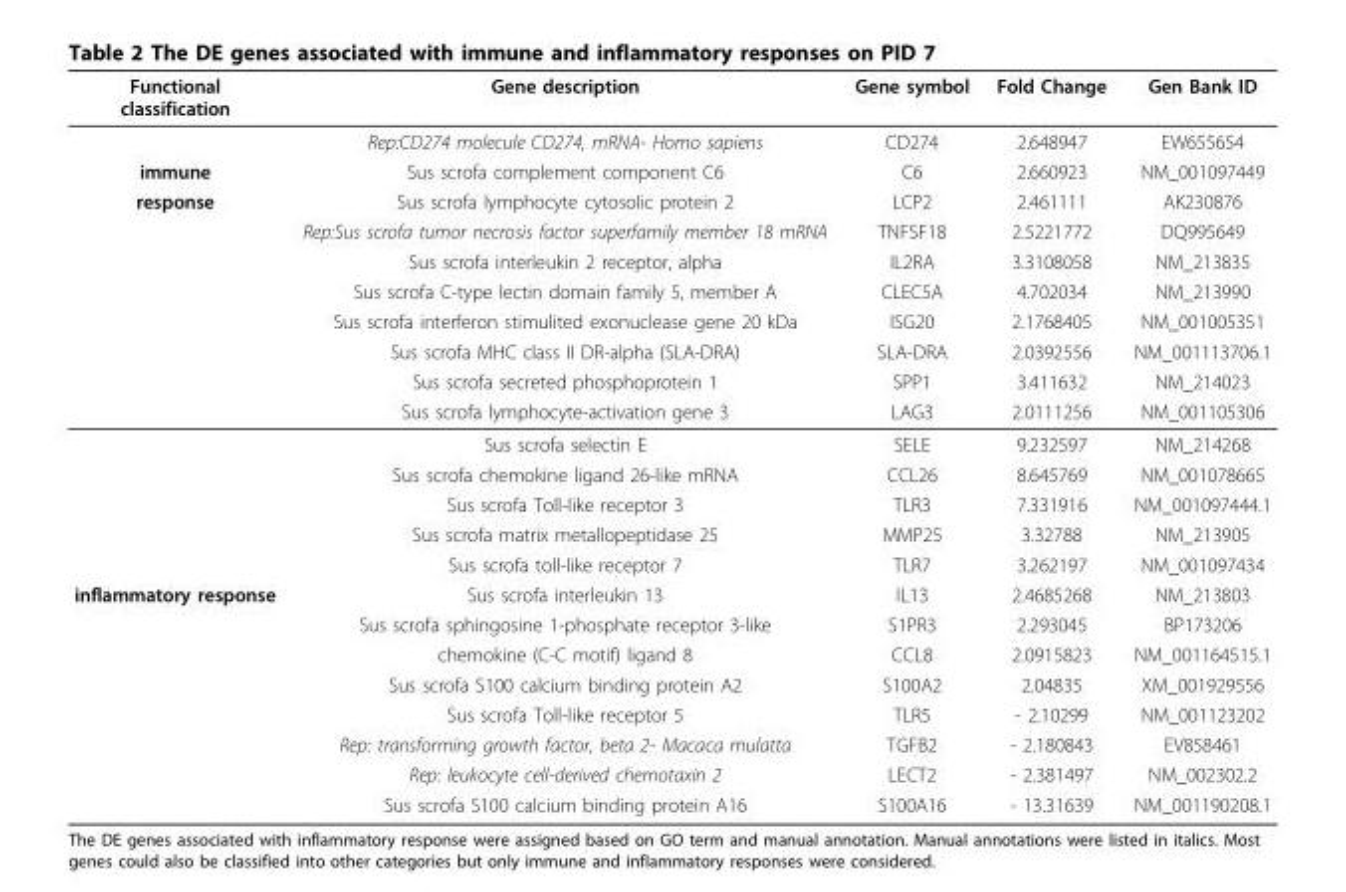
<table><thead><tr><td>Functional classification</td><td>Gene description</td><td>Gene symbol</td><td>Fold Change</td><td>Gen Bank ID</td></tr></thead><tbody><tr><td></td><td>Rep:CD274 molecule CD274, mRNA- Homo sapiens</td><td>CD274</td><td>2.648947</td><td>EW655654</td></tr><tr><td>immune</td><td>Sus scrofa complement component C6</td><td>C6</td><td>2.660923</td><td>NM_001097449</td></tr><tr><td rowspan="13">response</td><td>Sus scrofa lymphocyte cytosolic protein 2</td><td>LCP2</td><td>2.461111</td><td>AK230876</td></tr><tr><td>Rep:Sus scrofa tumor necrosis factor superfamily member 18 mRNA</td><td>TNFSF18</td><td>2.5221772</td><td>DQ995649</td></tr><tr><td>Sus scrofa interleukin 2 receptor, alpha</td><td>IL2RA</td><td>3.3108058</td><td>NM_213835</td></tr><tr><td>Sus scrofa C-type lectin domain family 5, member A</td><td>CLEC5A</td><td>4.702034</td><td>NM_213990</td></tr><tr><td>Sus scrofa interferon stimulited exonuclease gene 20 kDa</td><td>ISG20</td><td>2.1768405</td><td>NM_001005351</td></tr><tr><td>Sus scrofa MHC class II DR-alpha (SLA-DRA)</td><td>SLA-DRA</td><td>2.0392556</td><td>NM_001113706.1</td></tr><tr><td>Sus scrofa secreted phosphoprotein 1</td><td>SPP1</td><td>3.411632</td><td>NM_214023</td></tr><tr><td>Sus scrofa lymphocyte-activation gene 3</td><td>LAG3</td><td>2.0111256</td><td>NM_001105306</td></tr><tr><td>Sus scrofa selectin E</td><td>SELE</td><td>9.232597</td><td>NM_214268</td></tr><tr><td>Sus scrofa chemokine ligand 26-like mRNA</td><td>CCL26</td><td>8.645769</td><td>NM_001078665</td></tr><tr><td>Sus scrofa Toll-like receptor 3</td><td>TLR3</td><td>7.331916</td><td>NM_001097444.1</td></tr><tr><td>Sus scrofa matrix metallopeptidase 25</td><td>MMP25</td><td>3.32788</td><td>NM_213905</td></tr><tr><td>Sus scrofa toll-like receptor 7</td><td>TLR7</td><td>3.262197</td><td>NM_001097434</td></tr><tr><td rowspan="8">inflammatory response</td><td>Sus scrofa interleukin 13</td><td>IL13</td><td>2.4685268</td><td>NM_213803</td></tr><tr><td>Sus scrofa sphingosine 1-phosphate receptor 3-like</td><td>S1PR3</td><td>2.293045</td><td>BP173206</td></tr><tr><td>chemokine (C-C motif) ligand 8</td><td>CCL8</td><td>2.0915823</td><td>NM_001164515.1</td></tr><tr><td>Sus scrofa S100 calcium binding protein A2</td><td>S100A2</td><td>2.04835</td><td>XM_001929556</td></tr><tr><td>Sus scrofa Toll-like receptor 5</td><td>TLR5</td><td>- 2.10299</td><td>NM_001123202</td></tr><tr><td>Rep: transforming growth factor, beta 2- Macaca mulatta</td><td>TGFB2</td><td>- 2.180843</td><td>EV858461</td></tr><tr><td>Rep: leukocyte cell-derived chemotaxin 2</td><td>LECT2</td><td>- 2.381497</td><td>NM_002302.2</td></tr><tr><td>Sus scrofa S100 calcium binding protein A16</td><td>S100A16</td><td>- 13.31639</td><td>NM_001190208.1</td></tr></tbody></table>